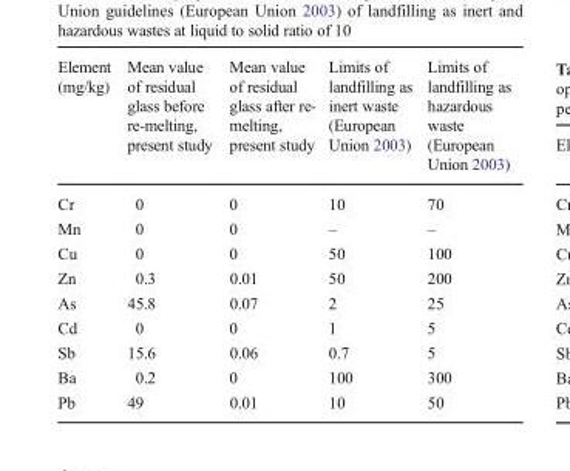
<table><thead><tr><td>Element (mg/kg)</td><td>Mean value of residual glass before re-melting, present study</td><td>Mean value of residual glass after re- melting, present study</td><td>Limits of landfilling as inert waste (European Union 2003)</td><td>Limits of landfilling as hazardous waste (European Union 2003)</td></tr></thead><tbody><tr><td>Cr</td><td>0</td><td>0</td><td>10</td><td>70</td></tr><tr><td>Mn</td><td>0</td><td>0</td><td>–</td><td>–</td></tr><tr><td>Cu</td><td>0</td><td>0</td><td>50</td><td>100</td></tr><tr><td>Zn</td><td>0.3</td><td>0.01</td><td>50</td><td>200</td></tr><tr><td>As</td><td>45.8</td><td>0.07</td><td>2</td><td>25</td></tr><tr><td>Cd</td><td>0</td><td>0</td><td>1</td><td>5</td></tr><tr><td>Sb</td><td>15.6</td><td>0.06</td><td>0.7</td><td>5</td></tr><tr><td>Ba</td><td>0.2</td><td>0</td><td>100</td><td>300</td></tr><tr><td>Pb</td><td>49</td><td>0.01</td><td>10</td><td>50</td></tr></tbody></table>